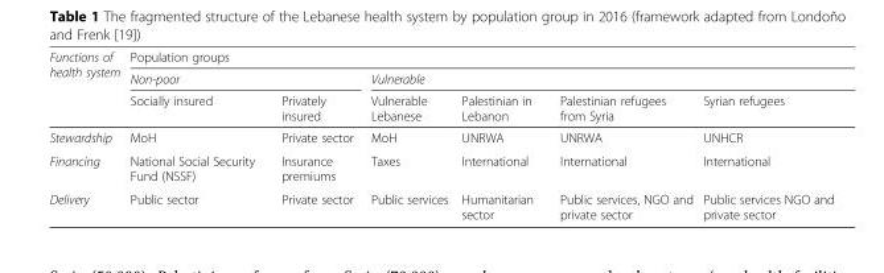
<table><thead><tr><td rowspan="3">Functions of health system</td><td colspan="6">Population groups</td></tr><tr><td colspan="2">Non-poor</td><td colspan="4">Vulnerable</td></tr><tr><td>Socially insured</td><td>Privately insured</td><td>Vulnerable Lebanese</td><td>Palestinian in Lebanon</td><td>Palestinian refugees from Syria</td><td>Syrian refugees</td></tr></thead><tbody><tr><td>Stewardship</td><td>MoH</td><td>Private sector</td><td>MoH</td><td>UNRWA</td><td>UNRWA</td><td>UNHCR</td></tr><tr><td>Financing</td><td>National Social Security Fund (NSSF)</td><td>Insurance premiums</td><td>Taxes</td><td>International</td><td>International</td><td>International</td></tr><tr><td>Delivery</td><td>Public sector</td><td>Private sector</td><td>Public services</td><td>Humanitarian sector</td><td>Public services, NGO and private sector</td><td>Public services NGO and private sector</td></tr></tbody></table>